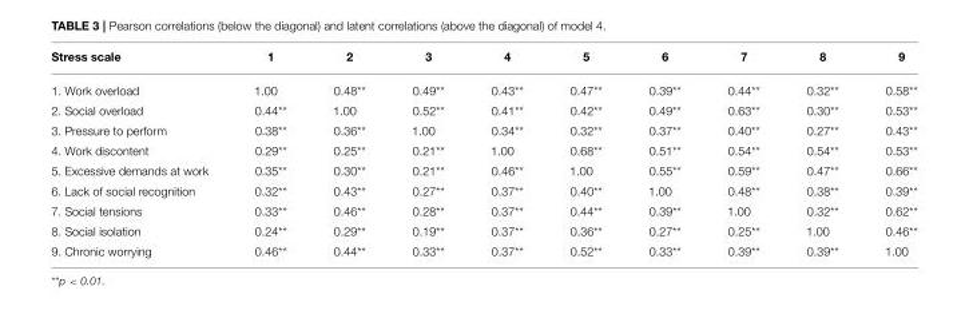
<table><thead><tr><td>Stress scale</td><td>1</td><td>2</td><td>3</td><td>4</td><td>5</td><td>6</td><td>7</td><td>8</td><td>9</td></tr></thead><tbody><tr><td>1. Work overload</td><td>1.00</td><td>0.48**</td><td>0.49**</td><td>0.43**</td><td>0.47**</td><td>0.39**</td><td>0.44**</td><td>0.32**</td><td>0.58**</td></tr><tr><td>2. Social overload</td><td>0.44**</td><td>1.00</td><td>0.52**</td><td>0.41**</td><td>0.42**</td><td>0.49**</td><td>0.63**</td><td>0.30**</td><td>0.53**</td></tr><tr><td>3. Pressure to perform</td><td>0.38**</td><td>0.36**</td><td>1.00</td><td>0.34**</td><td>0.32**</td><td>0.37**</td><td>0.40**</td><td>0.27**</td><td>0.43**</td></tr><tr><td>4. Work discontent</td><td>0.29**</td><td>0.25**</td><td>0.21**</td><td>1.00</td><td>0.68**</td><td>0.51**</td><td>0.54**</td><td>0.54**</td><td>0.53**</td></tr><tr><td>5. Excessive demands at work</td><td>0.35**</td><td>0.30**</td><td>0.21**</td><td>0.46**</td><td>1.00</td><td>0.55**</td><td>0.59**</td><td>0.47**</td><td>0.66**</td></tr><tr><td>6. Lack of social recognition</td><td>0.32**</td><td>0.43**</td><td>0.27**</td><td>0.37**</td><td>0.40**</td><td>1.00</td><td>0.48**</td><td>0.38**</td><td>0.39**</td></tr><tr><td>7. Social tensions</td><td>0.33**</td><td>0.46**</td><td>0.28**</td><td>0.37**</td><td>0.44**</td><td>0.39**</td><td>1.00</td><td>0.32**</td><td>0.62**</td></tr><tr><td>8. Social isolation</td><td>0.24**</td><td>0.29**</td><td>0.19**</td><td>0.37**</td><td>0.36**</td><td>0.27**</td><td>0.25**</td><td>1.00</td><td>0.46**</td></tr><tr><td>9. Chronic worrying</td><td>0.46**</td><td>0.44**</td><td>0.33**</td><td>0.37**</td><td>0.52**</td><td>0.33**</td><td>0.39**</td><td>0.39**</td><td>1.00</td></tr></tbody></table>